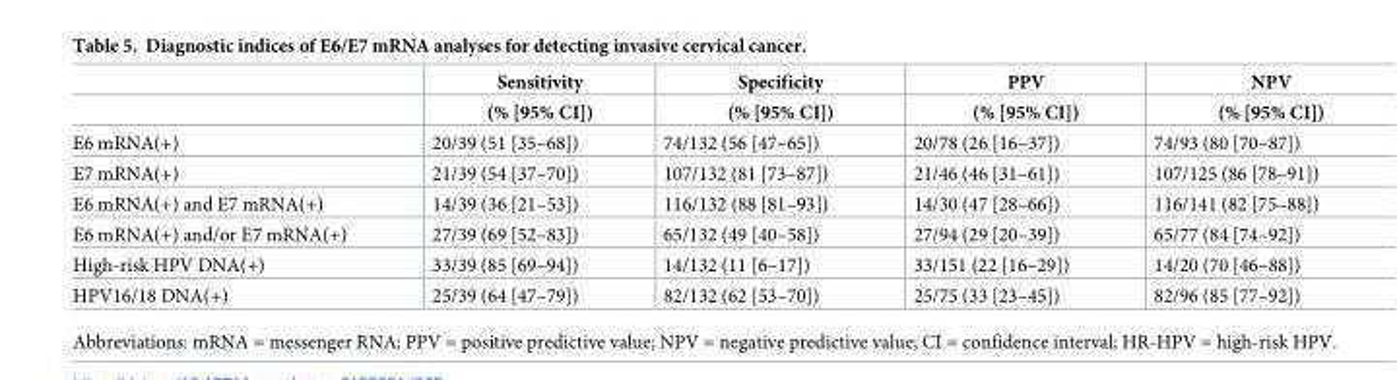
<table><thead><tr><td rowspan="2"></td><td rowspan="2">Sensitivity (% [95% CI])</td><td rowspan="2">Specificity (% [95% CI])</td><td rowspan="2">PPV (% [95% CI])</td><td rowspan="2">NPV (% [95% CI])</td></tr><tr></tr></thead><tbody><tr><td>E6 mRNA(+)</td><td>20/39 (51 [35–68])</td><td>74/132 (56 [47–65])</td><td>20/78 (26 [16–37])</td><td>74/93 (80 [70–87])</td></tr><tr><td>E7 mRNA(+)</td><td>21/39 (54 [37–70])</td><td>107/132 (81 [73–87])</td><td>21/46 (46 [31–61])</td><td>107/125 (86 [78–91])</td></tr><tr><td>E6 mRNA(+) and E7 mRNA(+)</td><td>14/39 (36 [21–53])</td><td>116/132 (88 [81–93])</td><td>14/30 (47 [28–66])</td><td>116/141 (82 [75–88])</td></tr><tr><td>E6 mRNA(+) and/or E7 mRNA(+)</td><td>27/39 (69 [52–83])</td><td>65/132 (49 [40–58])</td><td>27/94 (29 [20–39])</td><td>65/77 (84 [74–92])</td></tr><tr><td>High-risk HPV DNA(+)</td><td>33/39 (85 [69–94])</td><td>14/132 (11 [6–17])</td><td>33/151 (22 [16–29])</td><td>14/20 (70 [46–88])</td></tr><tr><td>HPV16/18 DNA(+)</td><td>25/39 (64 [47–79])</td><td>82/132 (62 [53–70])</td><td>25/75 (33 [23–45])</td><td>82/96 (85 [77–92])</td></tr></tbody></table>